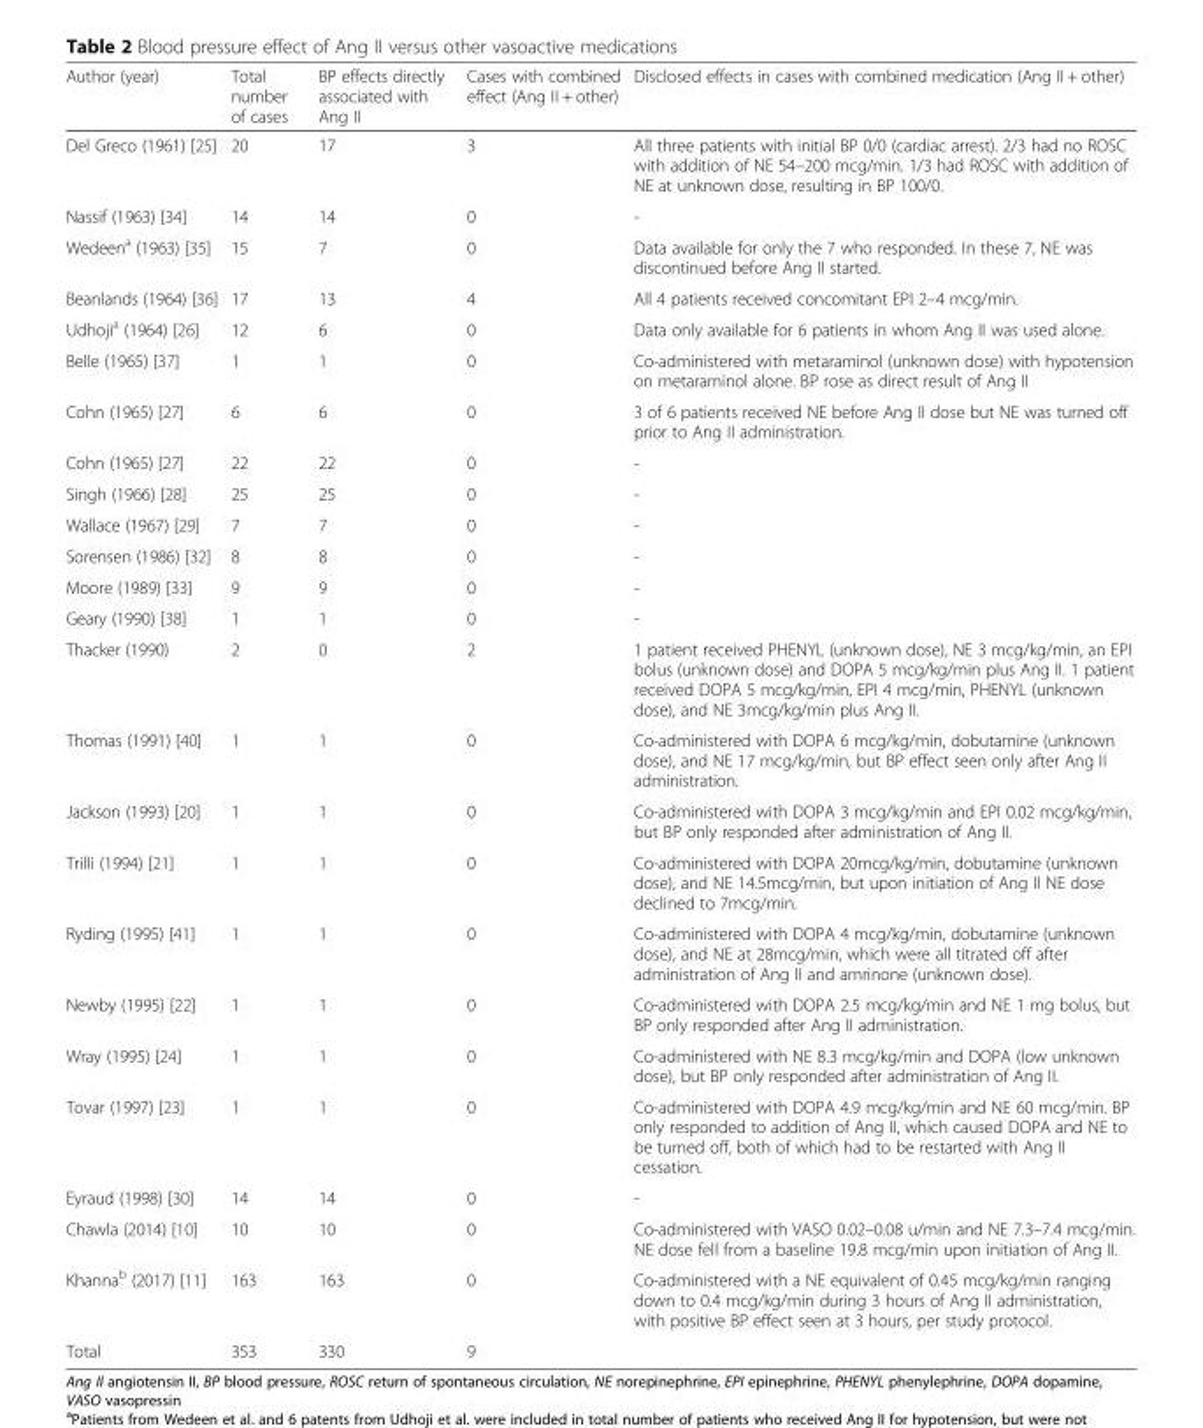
<table><thead><tr><td>Author (year)</td><td>Total number of cases</td><td>BP effects directly associated with Ang II</td><td>Cases with combined effect (Ang II + other)</td><td>Disclosed effects in cases with combined medication (Ang II + other)</td></tr></thead><tbody><tr><td>Del Greco (1961) [25]</td><td>20</td><td>17</td><td>3</td><td>All three patients with initial BP 0/0 (cardiac arrest). 2/3 had no ROSC with addition of NE 54–200 mcg/min. 1/3 had ROSC with addition of NE at unknown dose, resulting in BP 100/0.</td></tr><tr><td>Nassif (1963) [34]</td><td>14</td><td>14</td><td>0</td><td>-</td></tr><tr><td>Wedeen<sup>a</sup> (1963) [35]</td><td>15</td><td>7</td><td>0</td><td>Data available for only the 7 who responded. In these 7, NE was discontinued before Ang II started.</td></tr><tr><td>Beanlands (1964) [36]</td><td>17</td><td>13</td><td>4</td><td>All 4 patients received concomitant EPI 2–4 mcg/min.</td></tr><tr><td>Udhoji<sup>a</sup> (1964) [26]</td><td>12</td><td>6</td><td>0</td><td>Data only available for 6 patients in whom Ang II was used alone.</td></tr><tr><td>Belle (1965) [37]</td><td>1</td><td>1</td><td>0</td><td>Co-administered with metaraminol (unknown dose) with hypotension on metaraminol alone. BP rose as direct result of Ang II</td></tr><tr><td>Cohn (1965) [27]</td><td>6</td><td>6</td><td>0</td><td>3 of 6 patients received NE before Ang II dose but NE was turned off prior to Ang II administration.</td></tr><tr><td>Cohn (1965) [27]</td><td>22</td><td>22</td><td>0</td><td>-</td></tr><tr><td>Singh (1966) [28]</td><td>25</td><td>25</td><td>0</td><td>-</td></tr><tr><td>Wallace (1967) [29]</td><td>7</td><td>7</td><td>0</td><td>-</td></tr><tr><td>Sorensen (1986) [32]</td><td>8</td><td>8</td><td>0</td><td>-</td></tr><tr><td>Moore (1989) [33]</td><td>9</td><td>9</td><td>0</td><td>-</td></tr><tr><td>Geary (1990) [38]</td><td>1</td><td>1</td><td>0</td><td>-</td></tr><tr><td>Thacker (1990)</td><td>2</td><td>0</td><td>2</td><td>1 patient received PHENYL (unknown dose), NE 3 mcg/kg/min, an EPI bolus (unknown dose) and DOPA 5 mcg/kg/min plus Ang II. 1 patient received DOPA 5 mcg/kg/min, EPI 4 mcg/min, PHENYL (unknown dose), and NE 3mcg/kg/min plus Ang II.</td></tr><tr><td>Thomas (1991) [40]</td><td>1</td><td>1</td><td>0</td><td>Co-administered with DOPA 6 mcg/kg/min, dobutamine (unknown dose), and NE 17 mcg/kg/min, but BP effect seen only after Ang II administration.</td></tr><tr><td>Jackson (1993) [20]</td><td>1</td><td>1</td><td>0</td><td>Co-administered with DOPA 3 mcg/kg/min and EPI 0.02 mcg/kg/min, but BP only responded after administration of Ang II.</td></tr><tr><td>Trilli (1994) [21]</td><td>1</td><td>1</td><td>0</td><td>Co-administered with DOPA 20mcg/kg/min, dobutamine (unknown dose), and NE 14.5mcg/min, but upon initiation of Ang II NE dose declined to 7mcg/min.</td></tr><tr><td>Ryding (1995) [41]</td><td>1</td><td>1</td><td>0</td><td>Co-administered with DOPA 4 mcg/kg/min, dobutamine (unknown dose), and NE at 28mcg/min, which were all titrated off after administration of Ang II and amrinone (unknown dose).</td></tr><tr><td>Newby (1995) [22]</td><td>1</td><td>1</td><td>0</td><td>Co-administered with DOPA 2.5 mcg/kg/min and NE 1 mg bolus, but BP only responded after Ang II administration.</td></tr><tr><td>Wray (1995) [24]</td><td>1</td><td>1</td><td>0</td><td>Co-administered with NE 8.3 mcg/kg/min and DOPA (low unknown dose), but BP only responded after administration of Ang II.</td></tr><tr><td>Tovar (1997) [23]</td><td>1</td><td>1</td><td>0</td><td>Co-administered with DOPA 4.9 mcg/kg/min and NE 60 mcg/min. BP only responded to addition of Ang II, which caused DOPA and NE to be turned off, both of which had to be restarted with Ang II cessation.</td></tr><tr><td>Eyraud (1998) [30]</td><td>14</td><td>14</td><td>0</td><td>-</td></tr><tr><td>Chawla (2014) [10]</td><td>10</td><td>10</td><td>0</td><td>Co-administered with VASO 0.02–0.08 u/min and NE 7.3–7.4 mcg/min. NE dose fell from a baseline 19.8 mcg/min upon initiation of Ang II.</td></tr><tr><td>Khanna<sup>b</sup> (2017) [11]</td><td>163</td><td>163</td><td>0</td><td>Co-administered with a NE equivalent of 0.45 mcg/kg/min ranging down to 0.4 mcg/kg/min during 3 hours of Ang II administration, with positive BP effect seen at 3 hours, per study protocol.</td></tr><tr><td>Total</td><td>353</td><td>330</td><td>9</td><td></td></tr></tbody></table>